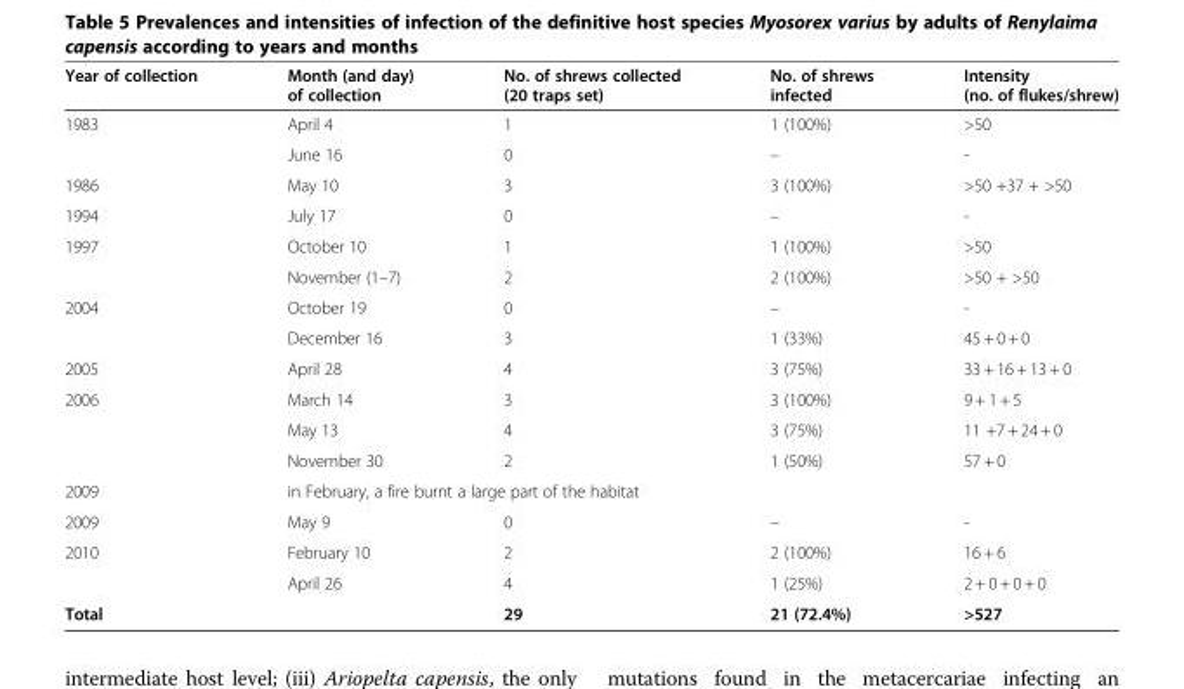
<table><thead><tr><td>Year of collection</td><td>Month (and day) of collection</td><td>No. of shrews collected (20 traps set)</td><td>No. of shrews infected</td><td>Intensity (no. of flukes/shrew)</td></tr></thead><tbody><tr><td rowspan="2">1983</td><td>April 4</td><td>1</td><td>1 (100%)</td><td>&gt;50</td></tr><tr><td>June 16</td><td>0</td><td>–</td><td>-</td></tr><tr><td>1986</td><td>May 10</td><td>3</td><td>3 (100%)</td><td>&gt;50 +37 + &gt;50</td></tr><tr><td>1994</td><td>July 17</td><td>0</td><td>–</td><td>-</td></tr><tr><td rowspan="2">1997</td><td>October 10</td><td>1</td><td>1 (100%)</td><td>&gt;50</td></tr><tr><td>November (1–7)</td><td>2</td><td>2 (100%)</td><td>&gt;50 + &gt;50</td></tr><tr><td rowspan="2">2004</td><td>October 19</td><td>0</td><td>–</td><td>-</td></tr><tr><td>December 16</td><td>3</td><td>1 (33%)</td><td>45 + 0 + 0</td></tr><tr><td>2005</td><td>April 28</td><td>4</td><td>3 (75%)</td><td>33 + 16 + 13 + 0</td></tr><tr><td rowspan="3">2006</td><td>March 14</td><td>3</td><td>3 (100%)</td><td>9 + 1 + 5</td></tr><tr><td>May 13</td><td>4</td><td>3 (75%)</td><td>11 +7 + 24 + 0</td></tr><tr><td>November 30</td><td>2</td><td>1 (50%)</td><td>57 + 0</td></tr><tr><td>2009</td><td colspan="4">in February, a fire burnt a large part of the habitat</td></tr><tr><td>2009</td><td>May 9</td><td>0</td><td>–</td><td>-</td></tr><tr><td rowspan="2">2010</td><td>February 10</td><td>2</td><td>2 (100%)</td><td>16 + 6</td></tr><tr><td>April 26</td><td>4</td><td>1 (25%)</td><td>2 + 0 + 0 + 0</td></tr><tr><td>Total</td><td></td><td>29</td><td>21 (72.4%)</td><td>&gt;527</td></tr></tbody></table>